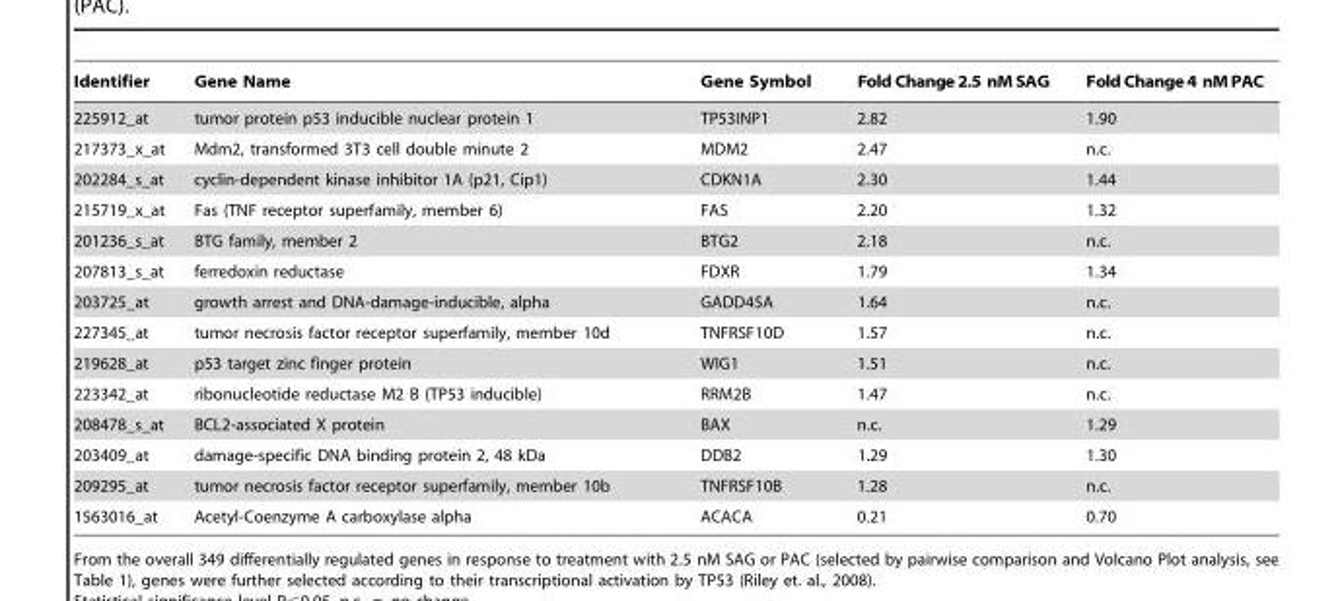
<table><thead><tr><td>Identifier</td><td>Gene Name</td><td>Gene Symbol</td><td>Fold Change 2.5 nM SAG</td><td>Fold Change 4 nM PAC</td></tr></thead><tbody><tr><td>225912_at</td><td>tumor protein p53 inducible nuclear protein 1</td><td>TP53INP1</td><td>2.82</td><td>1.90</td></tr><tr><td>217373_x_at</td><td>Mdm2, transformed 3T3 cell double minute 2</td><td>MDM2</td><td>2.47</td><td>n.c.</td></tr><tr><td>202284_s_at</td><td>cyclin-dependent kinase inhibitor 1A (p21, Cip1)</td><td>CDKN1A</td><td>2.30</td><td>1.44</td></tr><tr><td>215719_x_at</td><td>Fas (TNF receptor superfamily, member 6)</td><td>FAS</td><td>2.20</td><td>1.32</td></tr><tr><td>201236_s_at</td><td>BTG family, member 2</td><td>BTG2</td><td>2.18</td><td>n.c.</td></tr><tr><td>207813_s_at</td><td>ferredoxin reductase</td><td>FDXR</td><td>1.79</td><td>1.34</td></tr><tr><td>203725_at</td><td>growth arrest and DNA-damage-inducible, alpha</td><td>GADD45A</td><td>1.64</td><td>n.c.</td></tr><tr><td>227345_at</td><td>tumor necrosis factor receptor superfamily, member 10d</td><td>TNFRSF10D</td><td>1.57</td><td>n.c.</td></tr><tr><td>219628_at</td><td>p53 target zinc finger protein</td><td>WIG1</td><td>1.51</td><td>n.c.</td></tr><tr><td>223342_at</td><td>ribonucleotide reductase M2 B (TP53 inducible)</td><td>RRM2B</td><td>1.47</td><td>n.c.</td></tr><tr><td>208478_s_at</td><td>BCL2-associated X protein</td><td>BAX</td><td>n.c.</td><td>1.29</td></tr><tr><td>203409_at</td><td>damage-specific DNA binding protein 2, 48 kDa</td><td>DDB2</td><td>1.29</td><td>1.30</td></tr><tr><td>209295_at</td><td>tumor necrosis factor receptor superfamily, member 10b</td><td>TNFRSF10B</td><td>1.28</td><td>n.c.</td></tr><tr><td>1563016_at</td><td>Acetyl-Coenzyme A carboxylase alpha</td><td>ACACA</td><td>0.21</td><td>0.70</td></tr></tbody></table>